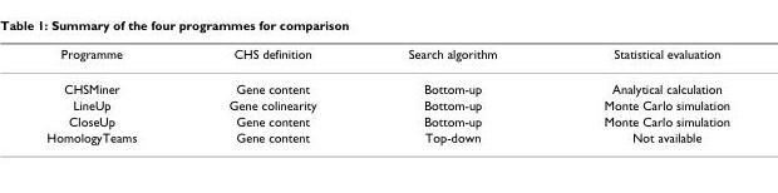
<table><thead><tr><td>Programme</td><td>CHS definition</td><td>Search algorithm</td><td>Statistical evaluation</td></tr></thead><tbody><tr><td>CHSMiner</td><td>Gene content</td><td>Bottom-up</td><td>Analytical calculation</td></tr><tr><td>LineUp</td><td>Gene colinearity</td><td>Bottom-up</td><td>Monte Carlo simulation</td></tr><tr><td>CloseUp</td><td>Gene content</td><td>Bottom-up</td><td>Monte Carlo simulation</td></tr><tr><td>HomologyTeams</td><td>Gene content</td><td>Top-down</td><td>Not available</td></tr></tbody></table>